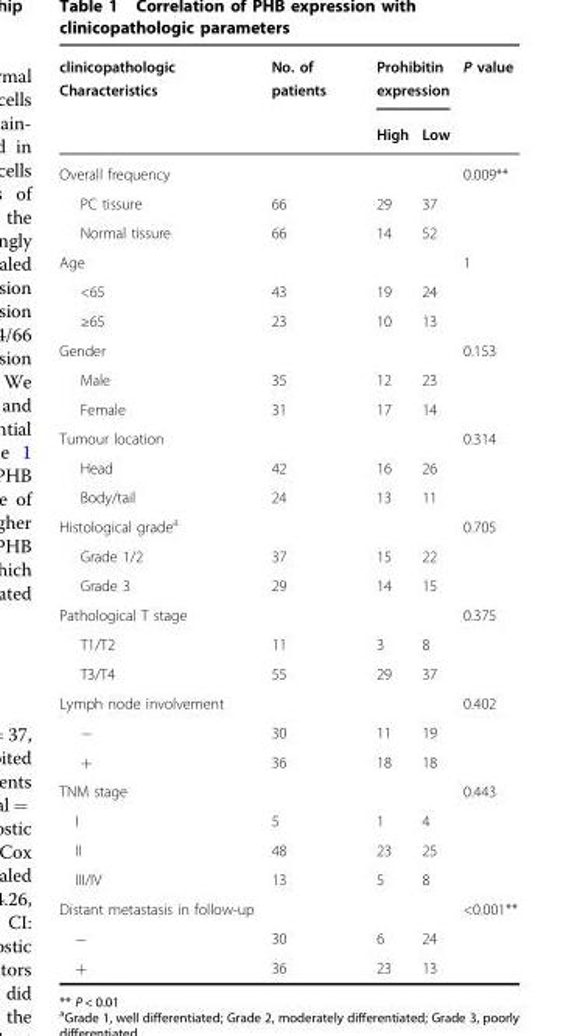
<table><thead><tr><td rowspan="2">clinicopathologic Characteristics</td><td rowspan="2">No. of patients</td><td colspan="2">Prohibitin expression</td><td rowspan="2">P value</td></tr><tr><td>High</td><td>Low</td></tr></thead><tbody><tr><td>Overall frequency</td><td></td><td></td><td></td><td>0.009**</td></tr><tr><td>PC tissure</td><td>66</td><td>29</td><td>37</td><td></td></tr><tr><td>Normal tissure</td><td>66</td><td>14</td><td>52</td><td></td></tr><tr><td>Age</td><td></td><td></td><td></td><td>1</td></tr><tr><td>&lt;65</td><td>43</td><td>19</td><td>24</td><td></td></tr><tr><td>≥65</td><td>23</td><td>10</td><td>13</td><td></td></tr><tr><td>Gender</td><td></td><td></td><td></td><td>0.153</td></tr><tr><td>Male</td><td>35</td><td>12</td><td>23</td><td></td></tr><tr><td>Female</td><td>31</td><td>17</td><td>14</td><td></td></tr><tr><td>Tumour location</td><td></td><td></td><td></td><td>0.314</td></tr><tr><td>Head</td><td>42</td><td>16</td><td>26</td><td></td></tr><tr><td>Body/tail</td><td>24</td><td>13</td><td>11</td><td></td></tr><tr><td>Histological grade<sup>a</sup></td><td></td><td></td><td></td><td>0.705</td></tr><tr><td>Grade 1/2</td><td>37</td><td>15</td><td>22</td><td></td></tr><tr><td>Grade 3</td><td>29</td><td>14</td><td>15</td><td></td></tr><tr><td>Pathological T stage</td><td></td><td></td><td></td><td>0.375</td></tr><tr><td>T1/T2</td><td>11</td><td>3</td><td>8</td><td></td></tr><tr><td>T3/T4</td><td>55</td><td>29</td><td>37</td><td></td></tr><tr><td>Lymph node involvement</td><td></td><td></td><td></td><td>0.402</td></tr><tr><td>−</td><td>30</td><td>11</td><td>19</td><td></td></tr><tr><td>+</td><td>36</td><td>18</td><td>18</td><td></td></tr><tr><td>TNM stage</td><td></td><td></td><td></td><td>0.443</td></tr><tr><td>I</td><td>5</td><td>1</td><td>4</td><td></td></tr><tr><td>II</td><td>48</td><td>23</td><td>25</td><td></td></tr><tr><td>III/IV</td><td>13</td><td>5</td><td>8</td><td></td></tr><tr><td>Distant metastasis in follow-up</td><td></td><td></td><td></td><td>&lt;0.001**</td></tr><tr><td>−</td><td>30</td><td>6</td><td>24</td><td></td></tr><tr><td>+</td><td>36</td><td>23</td><td>13</td><td></td></tr></tbody></table>